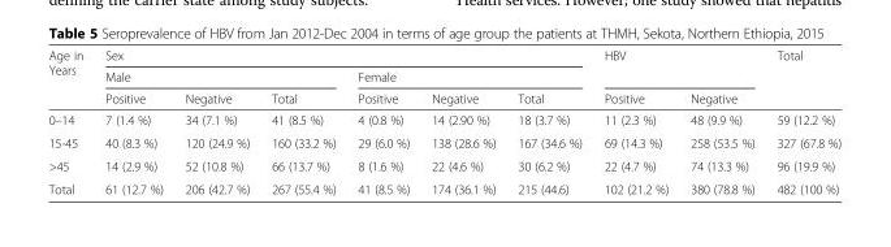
<table><thead><tr><td rowspan="3">Age in Years</td><td colspan="6">Sex</td><td rowspan="2" colspan="2">HBV</td><td rowspan="3">Total</td></tr><tr><td colspan="3">Male</td><td colspan="3">Female</td></tr><tr><td>Positive</td><td>Negative</td><td>Total</td><td>Positive</td><td>Negative</td><td>Total</td><td>Positive</td><td>Negative</td></tr></thead><tbody><tr><td>0–14</td><td>7 (1.4 %)</td><td>34 (7.1 %)</td><td>41 (8.5 %)</td><td>4 (0.8 %)</td><td>14 (2.90 %)</td><td>18 (3.7 %)</td><td>11 (2.3 %)</td><td>48 (9.9 %)</td><td>59 (12.2 %)</td></tr><tr><td>15-45</td><td>40 (8.3 %)</td><td>120 (24.9 %)</td><td>160 (33.2 %)</td><td>29 (6.0 %)</td><td>138 (28.6 %)</td><td>167 (34.6 %)</td><td>69 (14.3 %)</td><td>258 (53.5 %)</td><td>327 (67.8 %)</td></tr><tr><td>&gt;45</td><td>14 (2.9 %)</td><td>52 (10.8 %)</td><td>66 (13.7 %)</td><td>8 (1.6 %)</td><td>22 (4.6 %)</td><td>30 (6.2 %)</td><td>22 (4.7 %)</td><td>74 (13.3 %)</td><td>96 (19.9 %)</td></tr><tr><td>Total</td><td>61 (12.7 %)</td><td>206 (42.7 %)</td><td>267 (55.4 %)</td><td>41 (8.5 %)</td><td>174 (36.1 %)</td><td>215 (44.6)</td><td>102 (21.2 %)</td><td>380 (78.8 %)</td><td>482 (100 %)</td></tr></tbody></table>